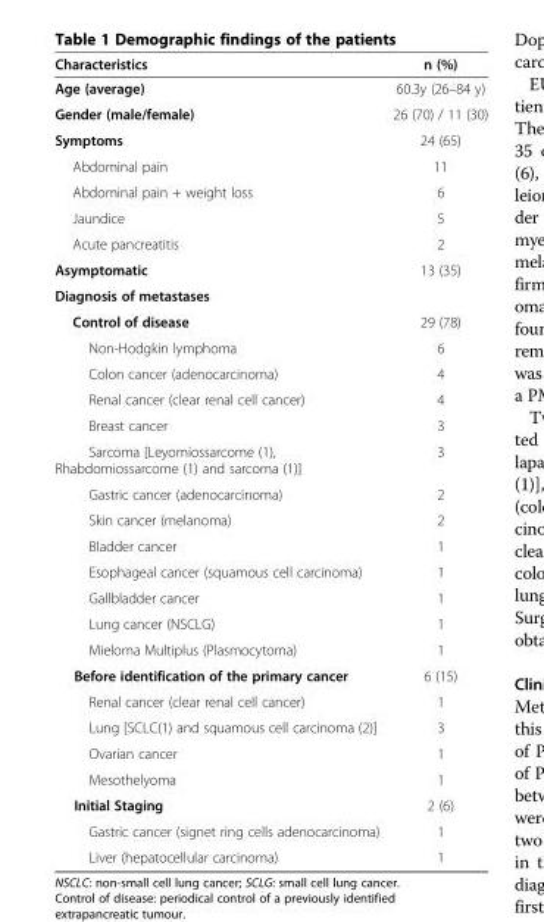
<table><thead><tr><td>Characteristics</td><td>n (%)</td></tr></thead><tbody><tr><td>Age (average)</td><td>60.3y (26–84 y)</td></tr><tr><td>Gender (male/female)</td><td>26 (70) / 11 (30)</td></tr><tr><td>Symptoms</td><td>24 (65)</td></tr><tr><td>Abdominal pain</td><td>11</td></tr><tr><td>Abdominal pain + weight loss</td><td>6</td></tr><tr><td>Jaundice</td><td>5</td></tr><tr><td>Acute pancreatitis</td><td>2</td></tr><tr><td>Asymptomatic</td><td>13 (35)</td></tr><tr><td colspan="2">Diagnosis of metastases</td></tr><tr><td>Control of disease</td><td>29 (78)</td></tr><tr><td>Non-Hodgkin lymphoma</td><td>6</td></tr><tr><td>Colon cancer (adenocarcinoma)</td><td>4</td></tr><tr><td>Renal cancer (clear renal cell cancer)</td><td>4</td></tr><tr><td>Breast cancer</td><td>3</td></tr><tr><td>Sarcoma [Leyomiossarcome (1), Rhabdomiossarcome (1) and sarcoma (1)]</td><td>3</td></tr><tr><td>Gastric cancer (adenocarcinoma)</td><td>2</td></tr><tr><td>Skin cancer (melanoma)</td><td>2</td></tr><tr><td>Bladder cancer</td><td>1</td></tr><tr><td>Esophageal cancer (squamous cell carcinoma)</td><td>1</td></tr><tr><td>Gallbladder cancer</td><td>1</td></tr><tr><td>Lung cancer (NSCLG)</td><td>1</td></tr><tr><td>Mieloma Multiplus (Plasmocytoma)</td><td>1</td></tr><tr><td>Before identification of the primary cancer</td><td>6 (15)</td></tr><tr><td>Renal cancer (clear renal cell cancer)</td><td>1</td></tr><tr><td>Lung [SCLC(1) and squamous cell carcinoma (2)]</td><td>3</td></tr><tr><td>Ovarian cancer</td><td>1</td></tr><tr><td>Mesothelyoma</td><td>1</td></tr><tr><td>Initial Staging</td><td>2 (6)</td></tr><tr><td>Gastric cancer (signet ring cells adenocarcinoma)</td><td>1</td></tr><tr><td>Liver (hepatocellular carcinoma)</td><td>1</td></tr></tbody></table>